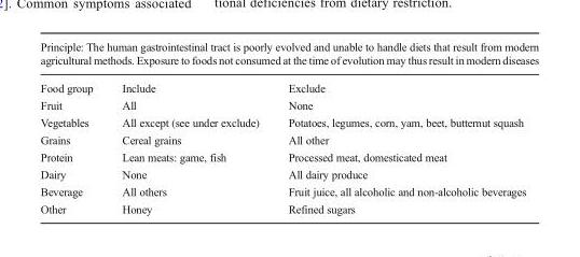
<table><thead><tr><td colspan="3">Principle: The human gastrointestinal tract is poorly evolved and unable to handle diets that result from modern agricultural methods. Exposure to foods not consumed at the time of evolution may thus result in modern diseases</td></tr><tr><td>Food group</td><td>Include</td><td>Exclude</td></tr></thead><tbody><tr><td>Fruit</td><td>All</td><td>None</td></tr><tr><td>Vegetables</td><td>All except (see under exclude)</td><td>Potatoes, legumes, corn, yam, beet, butternut squash</td></tr><tr><td>Grains</td><td>Cereal grains</td><td>All other</td></tr><tr><td>Protein</td><td>Lean meats: game, fish</td><td>Processed meat, domesticated meat</td></tr><tr><td>Dairy</td><td>None</td><td>All dairy produce</td></tr><tr><td>Beverage</td><td>All others</td><td>Fruit juice, all alcoholic and non-alcoholic beverages</td></tr><tr><td>Other</td><td>Honey</td><td>Refined sugars</td></tr></tbody></table>